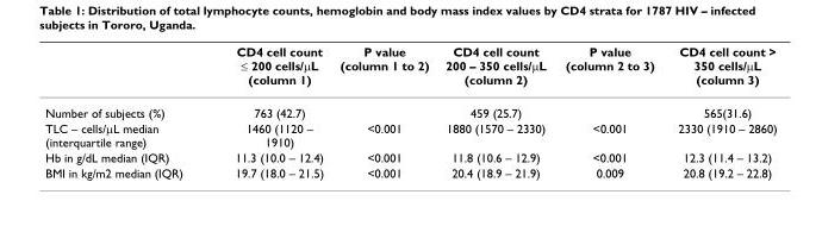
<table><thead><tr><td></td><td>CD4 cell count ≤ 200 cells/µL (column 1)</td><td>P value (column 1 to 2)</td><td>CD4 cell count 200 – 350 cells/µL (column 2)</td><td>P value (column 2 to 3)</td><td>CD4 cell count &gt; 350 cells/µL (column 3)</td></tr></thead><tbody><tr><td>Number of subjects (%)</td><td>763 (42.7)</td><td></td><td>459 (25.7)</td><td></td><td>565(31.6)</td></tr><tr><td>TLC – cells/µL median (interquartile range)</td><td>1460 (1120 – 1910)</td><td>&lt;0.001</td><td>1880 (1570 – 2330)</td><td>&lt;0.001</td><td>2330 (1910 – 2860)</td></tr><tr><td>Hb in g/dL median (IQR)</td><td>11.3 (10.0 – 12.4)</td><td>&lt;0.001</td><td>11.8 (10.6 – 12.9)</td><td>&lt;0.001</td><td>12.3 (11.4 – 13.2)</td></tr><tr><td>BMI in kg/m2 median (IQR)</td><td>19.7 (18.0 – 21.5)</td><td>&lt;0.001</td><td>20.4 (18.9 – 21.9)</td><td>0.009</td><td>20.8 (19.2 – 22.8)</td></tr></tbody></table>